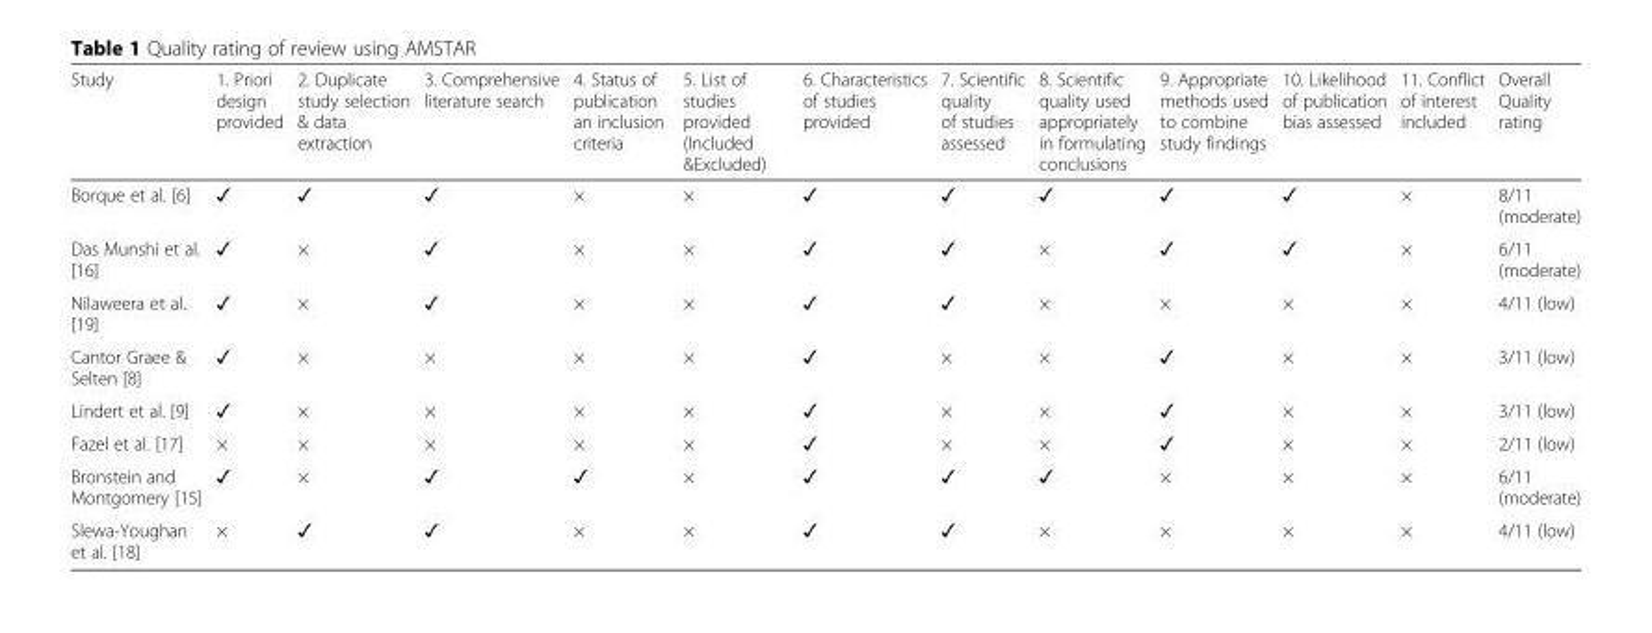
<table><thead><tr><td>Study</td><td>1. Priori design provided</td><td>2. Duplicate study selection &amp; data extraction</td><td>3. Comprehensive literature search</td><td>4. Status of publication an inclusion criteria</td><td>5. List of studies provided (Included &amp;Excluded)</td><td>6. Characteristics of studies provided</td><td>7. Scientific quality of studies assessed</td><td>8. Scientific quality used appropriately in formulating conclusions</td><td>9. Appropriate methods used to combine study findings</td><td>10. Likelihood of publication bias assessed</td><td>11. Conflict of interest included</td><td>Overall Quality rating</td></tr></thead><tbody><tr><td>Borque et al. [6]</td><td>✓</td><td>✓</td><td>✓</td><td>×</td><td>×</td><td>✓</td><td>✓</td><td>✓</td><td>✓</td><td>✓</td><td>×</td><td>8/11 (moderate)</td></tr><tr><td>Das Munshi et al. [16]</td><td>✓</td><td>×</td><td>✓</td><td>×</td><td>×</td><td>✓</td><td>✓</td><td>×</td><td>✓</td><td>✓</td><td>×</td><td>6/11 (moderate)</td></tr><tr><td>Nilaweera et al. [19]</td><td>✓</td><td>×</td><td>✓</td><td>×</td><td>×</td><td>✓</td><td>✓</td><td>×</td><td>×</td><td>×</td><td>×</td><td>4/11 (low)</td></tr><tr><td>Cantor Graee &amp; Selten [8]</td><td>✓</td><td>×</td><td>×</td><td>×</td><td>×</td><td>✓</td><td>×</td><td>×</td><td>✓</td><td>×</td><td>×</td><td>3/11 (low)</td></tr><tr><td>Lindert et al. [9]</td><td>✓</td><td>×</td><td>×</td><td>×</td><td>×</td><td>✓</td><td>×</td><td>×</td><td>✓</td><td>×</td><td>×</td><td>3/11 (low)</td></tr><tr><td>Fazel et al. [17]</td><td>×</td><td>×</td><td>×</td><td>×</td><td>×</td><td>✓</td><td>×</td><td>×</td><td>✓</td><td>×</td><td>×</td><td>2/11 (low)</td></tr><tr><td>Bronstein and Montgomery [15]</td><td>✓</td><td>×</td><td>✓</td><td>✓</td><td>×</td><td>✓</td><td>✓</td><td>✓</td><td>×</td><td>×</td><td>×</td><td>6/11 (moderate)</td></tr><tr><td>Slewa-Youghan et al. [18]</td><td>×</td><td>✓</td><td>✓</td><td>×</td><td>×</td><td>✓</td><td>✓</td><td>×</td><td>×</td><td>×</td><td>×</td><td>4/11 (low)</td></tr></tbody></table>